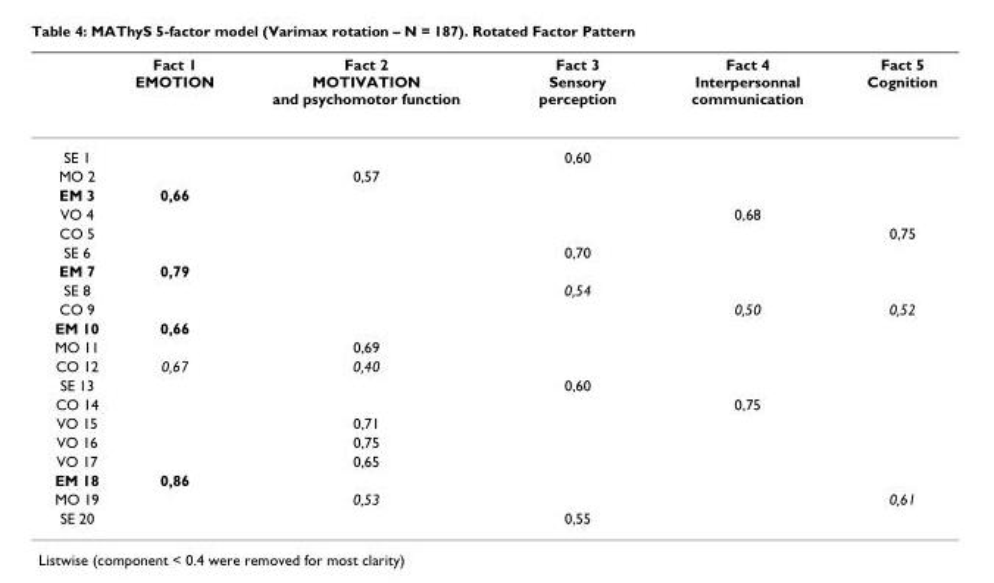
<table><thead><tr><td></td><td>Fact 1 EMOTION</td><td>Fact 2 MOTIVATION and psychomotor function</td><td>Fact 3 Sensory perception</td><td>Fact 4 Interpersonnal communication</td><td>Fact 5 Cognition</td></tr></thead><tbody><tr><td>SE 1</td><td></td><td></td><td>0,60</td><td></td><td></td></tr><tr><td>MO 2</td><td></td><td>0,57</td><td></td><td></td><td></td></tr><tr><td>EM 3</td><td>0,66</td><td></td><td></td><td></td><td></td></tr><tr><td>VO 4</td><td></td><td></td><td></td><td>0,68</td><td></td></tr><tr><td>CO 5</td><td></td><td></td><td></td><td></td><td>0,75</td></tr><tr><td>SE 6</td><td></td><td></td><td>0,70</td><td></td><td></td></tr><tr><td>EM 7</td><td>0,79</td><td></td><td></td><td></td><td></td></tr><tr><td>SE 8</td><td></td><td></td><td>0,54</td><td></td><td></td></tr><tr><td>CO 9</td><td></td><td></td><td></td><td>0,50</td><td>0,52</td></tr><tr><td>EM 10</td><td>0,66</td><td></td><td></td><td></td><td></td></tr><tr><td>MO 11</td><td></td><td>0,69</td><td></td><td></td><td></td></tr><tr><td>CO 12</td><td>0,67</td><td>0,40</td><td></td><td></td><td></td></tr><tr><td>SE 13</td><td></td><td></td><td>0,60</td><td></td><td></td></tr><tr><td>CO 14</td><td></td><td></td><td></td><td>0,75</td><td></td></tr><tr><td>VO 15</td><td></td><td>0,71</td><td></td><td></td><td></td></tr><tr><td>VO 16</td><td></td><td>0,75</td><td></td><td></td><td></td></tr><tr><td>VO 17</td><td></td><td>0,65</td><td></td><td></td><td></td></tr><tr><td>EM 18</td><td>0,86</td><td></td><td></td><td></td><td></td></tr><tr><td>MO 19</td><td></td><td>0,53</td><td></td><td></td><td>0,61</td></tr><tr><td>SE 20</td><td></td><td></td><td>0,55</td><td></td><td></td></tr></tbody></table>